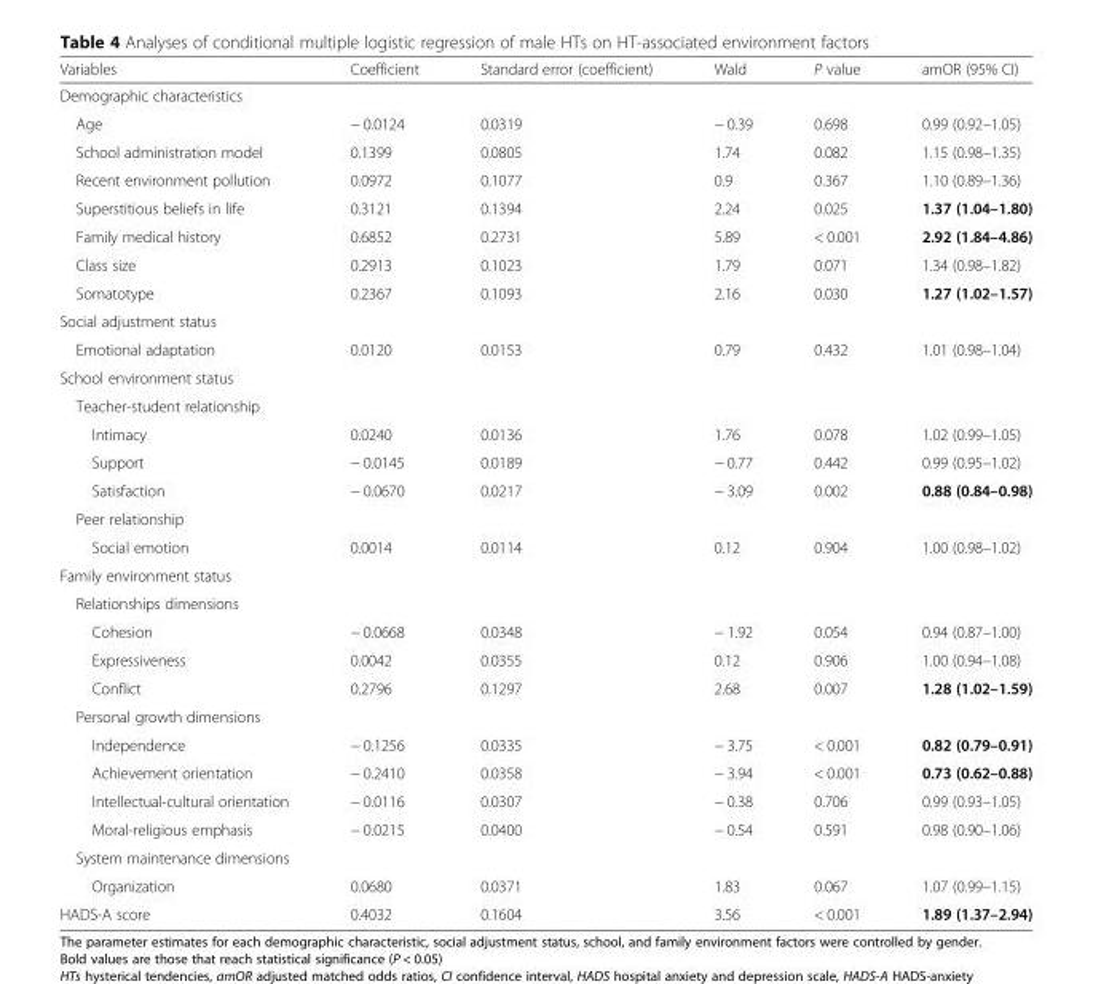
<table><thead><tr><td>Variables</td><td>Coefficient</td><td>Standard error (coefficient)</td><td>Wald</td><td>P value</td><td>amOR (95% CI)</td></tr></thead><tbody><tr><td colspan="6">Demographic characteristics</td></tr><tr><td>Age</td><td>− 0.0124</td><td>0.0319</td><td>− 0.39</td><td>0.698</td><td>0.99 (0.92–1.05)</td></tr><tr><td>School administration model</td><td>0.1399</td><td>0.0805</td><td>1.74</td><td>0.082</td><td>1.15 (0.98–1.35)</td></tr><tr><td>Recent environment pollution</td><td>0.0972</td><td>0.1077</td><td>0.9</td><td>0.367</td><td>1.10 (0.89–1.36)</td></tr><tr><td>Superstitious beliefs in life</td><td>0.3121</td><td>0.1394</td><td>2.24</td><td>0.025</td><td>1.37 (1.04–1.80)</td></tr><tr><td>Family medical history</td><td>0.6852</td><td>0.2731</td><td>5.89</td><td>&lt; 0.001</td><td>2.92 (1.84–4.86)</td></tr><tr><td>Class size</td><td>0.2913</td><td>0.1023</td><td>1.79</td><td>0.071</td><td>1.34 (0.98–1.82)</td></tr><tr><td>Somatotype</td><td>0.2367</td><td>0.1093</td><td>2.16</td><td>0.030</td><td>1.27 (1.02–1.57)</td></tr><tr><td colspan="6">Social adjustment status</td></tr><tr><td>Emotional adaptation</td><td>0.0120</td><td>0.0153</td><td>0.79</td><td>0.432</td><td>1.01 (0.98–1.04)</td></tr><tr><td colspan="6">School environment status</td></tr><tr><td colspan="6">Teacher-student relationship</td></tr><tr><td>Intimacy</td><td>0.0240</td><td>0.0136</td><td>1.76</td><td>0.078</td><td>1.02 (0.99–1.05)</td></tr><tr><td>Support</td><td>− 0.0145</td><td>0.0189</td><td>− 0.77</td><td>0.442</td><td>0.99 (0.95–1.02)</td></tr><tr><td>Satisfaction</td><td>− 0.0670</td><td>0.0217</td><td>− 3.09</td><td>0.002</td><td>0.88 (0.84–0.98)</td></tr><tr><td colspan="6">Peer relationship</td></tr><tr><td>Social emotion</td><td>0.0014</td><td>0.0114</td><td>0.12</td><td>0.904</td><td>1.00 (0.98–1.02)</td></tr><tr><td colspan="6">Family environment status</td></tr><tr><td colspan="6">Relationships dimensions</td></tr><tr><td>Cohesion</td><td>− 0.0668</td><td>0.0348</td><td>− 1.92</td><td>0.054</td><td>0.94 (0.87–1.00)</td></tr><tr><td>Expressiveness</td><td>0.0042</td><td>0.0355</td><td>0.12</td><td>0.906</td><td>1.00 (0.94–1.08)</td></tr><tr><td>Conflict</td><td>0.2796</td><td>0.1297</td><td>2.68</td><td>0.007</td><td>1.28 (1.02–1.59)</td></tr><tr><td colspan="6">Personal growth dimensions</td></tr><tr><td>Independence</td><td>− 0.1256</td><td>0.0335</td><td>− 3.75</td><td>&lt; 0.001</td><td>0.82 (0.79–0.91)</td></tr><tr><td>Achievement orientation</td><td>− 0.2410</td><td>0.0358</td><td>− 3.94</td><td>&lt; 0.001</td><td>0.73 (0.62–0.88)</td></tr><tr><td>Intellectual-cultural orientation</td><td>− 0.0116</td><td>0.0307</td><td>− 0.38</td><td>0.706</td><td>0.99 (0.93–1.05)</td></tr><tr><td>Moral-religious emphasis</td><td>− 0.0215</td><td>0.0400</td><td>− 0.54</td><td>0.591</td><td>0.98 (0.90–1.06)</td></tr><tr><td colspan="6">System maintenance dimensions</td></tr><tr><td>Organization</td><td>0.0680</td><td>0.0371</td><td>1.83</td><td>0.067</td><td>1.07 (0.99–1.15)</td></tr><tr><td>HADS-A score</td><td>0.4032</td><td>0.1604</td><td>3.56</td><td>&lt; 0.001</td><td>1.89 (1.37–2.94)</td></tr></tbody></table>